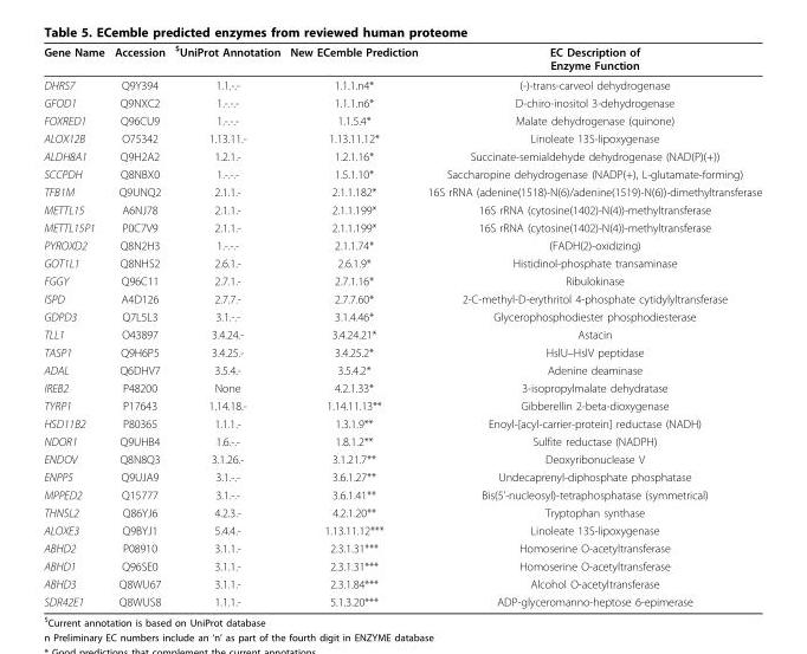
<table><thead><tr><td>Gene Name</td><td>Accession</td><td><sup>$</sup>UniProt Annotation</td><td>New ECemble Prediction</td><td>EC Description of Enzyme Function</td></tr></thead><tbody><tr><td>DHRS7</td><td>Q9Y394</td><td>1.1.-.-</td><td>1.1.1.n4*</td><td>(-)-trans-carveol dehydrogenase</td></tr><tr><td>GFOD1</td><td>Q9NXC2</td><td>1.-.-.-</td><td>1.1.1.n6*</td><td>D-chiro-inositol 3-dehydrogenase</td></tr><tr><td>FOXRED1</td><td>Q96CU9</td><td>1.-.-.-</td><td>1.1.5.4*</td><td>Malate dehydrogenase (quinone)</td></tr><tr><td>ALOX12B</td><td>O75342</td><td>1.13.11.-</td><td>1.13.11.12*</td><td>Linoleate 13S-lipoxygenase</td></tr><tr><td>ALDH8A1</td><td>Q9H2A2</td><td>1.2.1.-</td><td>1.2.1.16*</td><td>Succinate-semialdehyde dehydrogenase (NAD(P)(+))</td></tr><tr><td>SCCPDH</td><td>Q8NBX0</td><td>1.-.-.-</td><td>1.5.1.10*</td><td>Saccharopine dehydrogenase (NADP(+), L-glutamate-forming)</td></tr><tr><td>TFB1M</td><td>Q9UNQ2</td><td>2.1.1.-</td><td>2.1.1.182*</td><td>16S rRNA (adenine(1518)-N(6)/adenine(1519)-N(6))-dimethyltransferase</td></tr><tr><td>METTL15</td><td>A6NJ78</td><td>2.1.1.-</td><td>2.1.1.199*</td><td>16S rRNA (cytosine(1402)-N(4))-methyltransferase</td></tr><tr><td>METTL15P1</td><td>P0C7V9</td><td>2.1.1.-</td><td>2.1.1.199*</td><td>16S rRNA (cytosine(1402)-N(4))-methyltransferase</td></tr><tr><td>PYROXD2</td><td>Q8N2H3</td><td>1.-.-.-</td><td>2.1.1.74*</td><td>(FADH(2)-oxidizing)</td></tr><tr><td>GOT1L1</td><td>Q8NHS2</td><td>2.6.1.-</td><td>2.6.1.9*</td><td>Histidinol-phosphate transaminase</td></tr><tr><td>FGGY</td><td>Q96C11</td><td>2.7.1.-</td><td>2.7.1.16*</td><td>Ribulokinase</td></tr><tr><td>ISPD</td><td>A4D126</td><td>2.7.7.-</td><td>2.7.7.60*</td><td>2-C-methyl-D-erythritol 4-phosphate cytidylyltransferase</td></tr><tr><td>GDPD3</td><td>Q7L5L3</td><td>3.1.-.-</td><td>3.1.4.46*</td><td>Glycerophosphodiester phosphodiesterase</td></tr><tr><td>TLL1</td><td>O43897</td><td>3.4.24.-</td><td>3.4.24.21*</td><td>Astacin</td></tr><tr><td>TASP1</td><td>Q9H6P5</td><td>3.4.25.-</td><td>3.4.25.2*</td><td>HslU–HslV peptidase</td></tr><tr><td>ADAL</td><td>Q6DHV7</td><td>3.5.4.-</td><td>3.5.4.2*</td><td>Adenine deaminase</td></tr><tr><td>IREB2</td><td>P48200</td><td>None</td><td>4.2.1.33*</td><td>3-isopropylmalate dehydratase</td></tr><tr><td>TYRP1</td><td>P17643</td><td>1.14.18.-</td><td>1.14.11.13**</td><td>Gibberellin 2-beta-dioxygenase</td></tr><tr><td>HSD11B2</td><td>P80365</td><td>1.1.1.-</td><td>1.3.1.9**</td><td>Enoyl-[acyl-carrier-protein] reductase (NADH)</td></tr><tr><td>NDOR1</td><td>Q9UHB4</td><td>1.6.-.-</td><td>1.8.1.2**</td><td>Sulfite reductase (NADPH)</td></tr><tr><td>ENDOV</td><td>Q8N8Q3</td><td>3.1.26.-</td><td>3.1.21.7**</td><td>Deoxyribonuclease V</td></tr><tr><td>ENPP5</td><td>Q9UJA9</td><td>3.1.-.-</td><td>3.6.1.27**</td><td>Undecaprenyl-diphosphate phosphatase</td></tr><tr><td>MPPED2</td><td>Q15777</td><td>3.1.-.-</td><td>3.6.1.41**</td><td>Bis(5’-nucleosyl)-tetraphosphatase (symmetrical)</td></tr><tr><td>THNSL2</td><td>Q86YJ6</td><td>4.2.3.-</td><td>4.2.1.20**</td><td>Tryptophan synthase</td></tr><tr><td>ALOXE3</td><td>Q9BYJ1</td><td>5.4.4.-</td><td>1.13.11.12***</td><td>Linoleate 13S-lipoxygenase</td></tr><tr><td>ABHD2</td><td>P08910</td><td>3.1.1.-</td><td>2.3.1.31***</td><td>Homoserine O-acetyltransferase</td></tr><tr><td>ABHD1</td><td>Q96SE0</td><td>3.1.1.-</td><td>2.3.1.31***</td><td>Homoserine O-acetyltransferase</td></tr><tr><td>ABHD3</td><td>Q8WU67</td><td>3.1.1.-</td><td>2.3.1.84***</td><td>Alcohol O-acetyltransferase</td></tr><tr><td>SDR42E1</td><td>Q8WUS8</td><td>1.1.1.-</td><td>5.1.3.20***</td><td>ADP-glyceromanno-heptose 6-epimerase</td></tr></tbody></table>